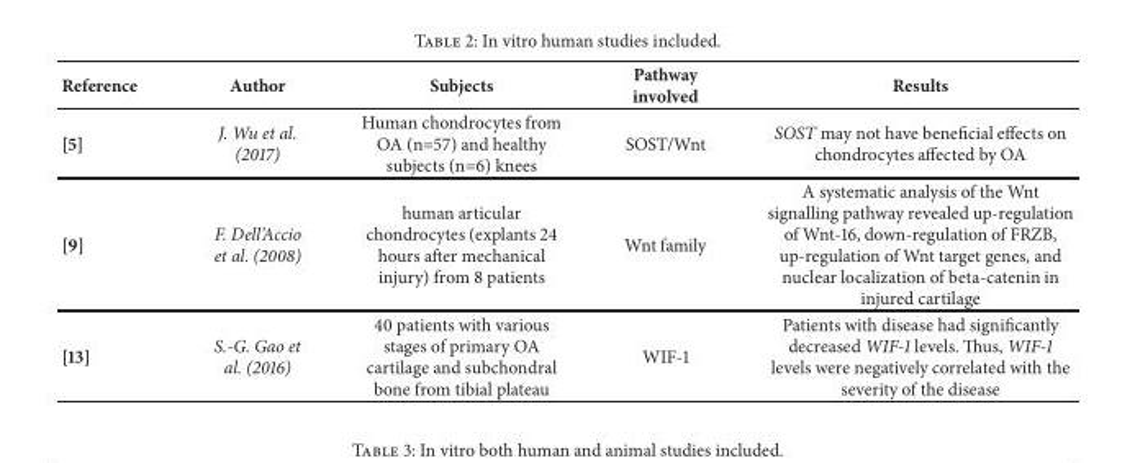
<table><thead><tr><td>Reference</td><td>Author</td><td>Subjects</td><td>Pathway involved</td><td>Results</td></tr></thead><tbody><tr><td>[5]</td><td>J. Wu et al. (2017)</td><td>Human chondrocytes from OA (n=57) and healthy subjects (n=6) knees</td><td>SOST/Wnt</td><td>SOST may not have beneficial effects on chondrocytes affected by OA</td></tr><tr><td>[9]</td><td>F. Dell’Accio et al. (2008)</td><td>human articular chondrocytes (explants 24 hours after mechanical injury) from 8 patients</td><td>Wnt family</td><td>A systematic analysis of the Wnt signalling pathway revealed up-regulation of Wnt-16, down-regulation of FRZB, up-regulation of Wnt target genes, and nuclear localization of beta-catenin in injured cartilage</td></tr><tr><td>[13]</td><td>S.-G. Gao et al. (2016)</td><td>40 patients with various stages of primary OA cartilage and subchondral bone from tibial plateau</td><td>WIF-1</td><td>Patients with disease had significantly decreased WIF-1 levels. Thus, WIF-1 levels were negatively correlated with the severity of the disease</td></tr></tbody></table>